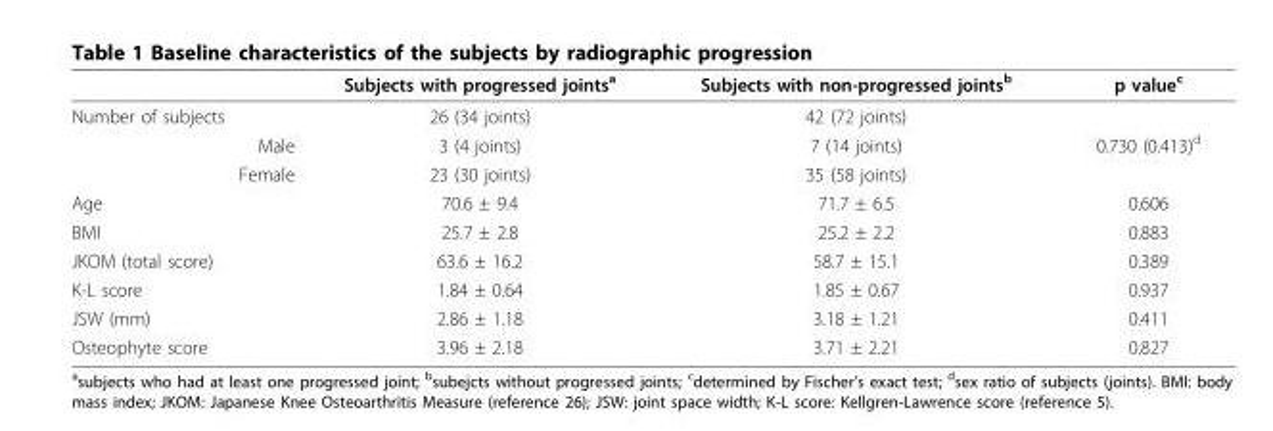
<table><thead><tr><td></td><td>Subjects with progressed joints<sup>a</sup></td><td>Subjects with non-progressed joints<sup>b</sup></td><td>p value<sup>c</sup></td></tr></thead><tbody><tr><td>Number of subjects</td><td>26 (34 joints)</td><td>42 (72 joints)</td><td></td></tr><tr><td>Male</td><td>3 (4 joints)</td><td>7 (14 joints)</td><td>0.730 (0.413)<sup>d</sup></td></tr><tr><td>Female</td><td>23 (30 joints)</td><td>35 (58 joints)</td><td></td></tr><tr><td>Age</td><td>70.6 ± 9.4</td><td>71.7 ± 6.5</td><td>0.606</td></tr><tr><td>BMI</td><td>25.7 ± 2.8</td><td>25.2 ± 2.2</td><td>0.883</td></tr><tr><td>JKOM (total score)</td><td>63.6 ± 16.2</td><td>58.7 ± 15.1</td><td>0.389</td></tr><tr><td>K-L score</td><td>1.84 ± 0.64</td><td>1.85 ± 0.67</td><td>0.937</td></tr><tr><td>JSW (mm)</td><td>2.86 ± 1.18</td><td>3.18 ± 1.21</td><td>0.411</td></tr><tr><td>Osteophyte score</td><td>3.96 ± 2.18</td><td>3.71 ± 2.21</td><td>0.827</td></tr></tbody></table>